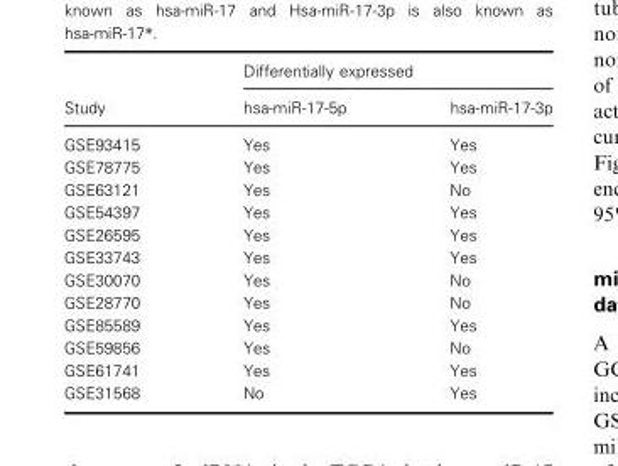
<table><thead><tr><td rowspan="2">Study</td><td colspan="2">Differentially expressed</td></tr><tr><td>hsa-miR-17-5p</td><td>hsa-miR-17-3p</td></tr></thead><tbody><tr><td>GSE93415</td><td>Yes</td><td>Yes</td></tr><tr><td>GSE78775</td><td>Yes</td><td>Yes</td></tr><tr><td>GSE63121</td><td>Yes</td><td>No</td></tr><tr><td>GSE54397</td><td>Yes</td><td>Yes</td></tr><tr><td>GSE26595</td><td>Yes</td><td>Yes</td></tr><tr><td>GSE33743</td><td>Yes</td><td>Yes</td></tr><tr><td>GSE30070</td><td>Yes</td><td>No</td></tr><tr><td>GSE28770</td><td>Yes</td><td>No</td></tr><tr><td>GSE85589</td><td>Yes</td><td>Yes</td></tr><tr><td>GSE59856</td><td>Yes</td><td>No</td></tr><tr><td>GSE61741</td><td>Yes</td><td>Yes</td></tr><tr><td>GSE31568</td><td>No</td><td>Yes</td></tr></tbody></table>